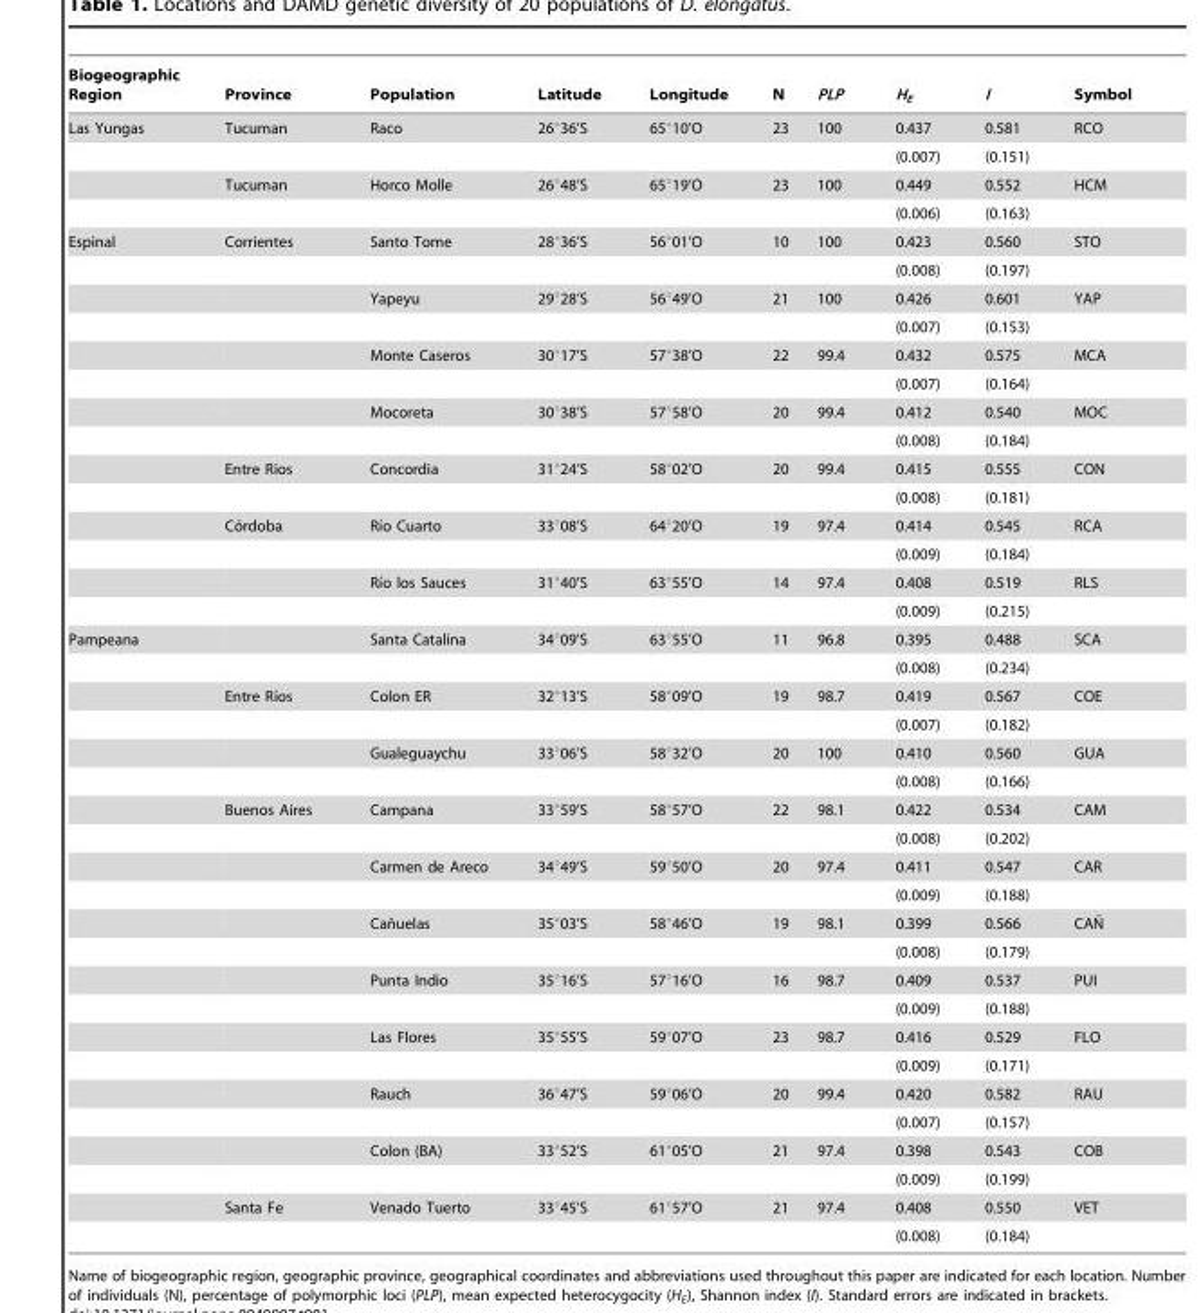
<table><thead><tr><td>Biogeographic Region</td><td>Province</td><td>Population</td><td>Latitude</td><td>Longitude</td><td>N</td><td>PLP</td><td>H<sub>E</sub></td><td>I</td><td>Symbol</td></tr></thead><tbody><tr><td rowspan="4">Las Yungas</td><td>Tucuman</td><td>Raco</td><td>26°36’S</td><td>65°10’O</td><td>23</td><td>100</td><td>0.437</td><td>0.581</td><td>RCO</td></tr><tr><td></td><td></td><td></td><td></td><td></td><td></td><td>(0.007)</td><td>(0.151)</td><td></td></tr><tr><td>Tucuman</td><td>Horco Molle</td><td>26°48’S</td><td>65°19’O</td><td>23</td><td>100</td><td>0.449</td><td>0.552</td><td>HCM</td></tr><tr><td></td><td></td><td></td><td></td><td></td><td></td><td>(0.006)</td><td>(0.163)</td><td></td></tr><tr><td rowspan="14">Espinal</td><td>Corrientes</td><td>Santo Tome</td><td>28°36’S</td><td>56°01’O</td><td>10</td><td>100</td><td>0.423</td><td>0.560</td><td>STO</td></tr><tr><td></td><td></td><td></td><td></td><td></td><td></td><td>(0.008)</td><td>(0.197)</td><td></td></tr><tr><td></td><td>Yapeyu</td><td>29°28’S</td><td>56°49’O</td><td>21</td><td>100</td><td>0.426</td><td>0.601</td><td>YAP</td></tr><tr><td></td><td></td><td></td><td></td><td></td><td></td><td>(0.007)</td><td>(0.153)</td><td></td></tr><tr><td></td><td>Monte Caseros</td><td>30°17’S</td><td>57°38’O</td><td>22</td><td>99.4</td><td>0.432</td><td>0.575</td><td>MCA</td></tr><tr><td></td><td></td><td></td><td></td><td></td><td></td><td>(0.007)</td><td>(0.164)</td><td></td></tr><tr><td></td><td>Mocoreta</td><td>30°38’S</td><td>57°58’O</td><td>20</td><td>99.4</td><td>0.412</td><td>0.540</td><td>MOC</td></tr><tr><td></td><td></td><td></td><td></td><td></td><td></td><td>(0.008)</td><td>(0.184)</td><td></td></tr><tr><td>Entre Rios</td><td>Concordia</td><td>31°24’S</td><td>58°02’O</td><td>20</td><td>99.4</td><td>0.415</td><td>0.555</td><td>CON</td></tr><tr><td></td><td></td><td></td><td></td><td></td><td></td><td>(0.008)</td><td>(0.181)</td><td></td></tr><tr><td>Co´rdoba</td><td>Rı´o Cuarto</td><td>33°08’S</td><td>64°20’O</td><td>19</td><td>97.4</td><td>0.414</td><td>0.545</td><td>RCA</td></tr><tr><td></td><td></td><td></td><td></td><td></td><td></td><td>(0.009)</td><td>(0.184)</td><td></td></tr><tr><td></td><td>Rı´o los Sauces</td><td>31°40’S</td><td>63°55’O</td><td>14</td><td>97.4</td><td>0.408</td><td>0.519</td><td>RLS</td></tr><tr><td></td><td></td><td></td><td></td><td></td><td></td><td>(0.009)</td><td>(0.215)</td><td></td></tr><tr><td rowspan="22">Pampeana</td><td></td><td>Santa Catalina</td><td>34°09’S</td><td>63°55’O</td><td>11</td><td>96.8</td><td>0.395</td><td>0.488</td><td>SCA</td></tr><tr><td></td><td></td><td></td><td></td><td></td><td></td><td>(0.008)</td><td>(0.234)</td><td></td></tr><tr><td>Entre Rı´os</td><td>Colon ER</td><td>32°13’S</td><td>58°09’O</td><td>19</td><td>98.7</td><td>0.419</td><td>0.567</td><td>COE</td></tr><tr><td></td><td></td><td></td><td></td><td></td><td></td><td>(0.007)</td><td>(0.182)</td><td></td></tr><tr><td></td><td>Gualeguaychu</td><td>33°06’S</td><td>58°32’O</td><td>20</td><td>100</td><td>0.410</td><td>0.560</td><td>GUA</td></tr><tr><td></td><td></td><td></td><td></td><td></td><td></td><td>(0.008)</td><td>(0.166)</td><td></td></tr><tr><td>Buenos Aires</td><td>Campana</td><td>33°59’S</td><td>58°57’O</td><td>22</td><td>98.1</td><td>0.422</td><td>0.534</td><td>CAM</td></tr><tr><td></td><td></td><td></td><td></td><td></td><td></td><td>(0.008)</td><td>(0.202)</td><td></td></tr><tr><td></td><td>Carmen de Areco</td><td>34°49’S</td><td>59°50’O</td><td>20</td><td>97.4</td><td>0.411</td><td>0.547</td><td>CAR</td></tr><tr><td></td><td></td><td></td><td></td><td></td><td></td><td>(0.009)</td><td>(0.188)</td><td></td></tr><tr><td></td><td>Can˜uelas</td><td>35°03’S</td><td>58°46’O</td><td>19</td><td>98.1</td><td>0.399</td><td>0.566</td><td>CAN˜</td></tr><tr><td></td><td></td><td></td><td></td><td></td><td></td><td>(0.008)</td><td>(0.179)</td><td></td></tr><tr><td></td><td>Punta Indio</td><td>35°16’S</td><td>57°16’O</td><td>16</td><td>98.7</td><td>0.409</td><td>0.537</td><td>PUI</td></tr><tr><td></td><td></td><td></td><td></td><td></td><td></td><td>(0.009)</td><td>(0.188)</td><td></td></tr><tr><td></td><td>Las Flores</td><td>35°55’S</td><td>59°07’O</td><td>23</td><td>98.7</td><td>0.416</td><td>0.529</td><td>FLO</td></tr><tr><td></td><td></td><td></td><td></td><td></td><td></td><td>(0.009)</td><td>(0.171)</td><td></td></tr><tr><td></td><td>Rauch</td><td>36°47’S</td><td>59°06’O</td><td>20</td><td>99.4</td><td>0.420</td><td>0.582</td><td>RAU</td></tr><tr><td></td><td></td><td></td><td></td><td></td><td></td><td>(0.007)</td><td>(0.157)</td><td></td></tr><tr><td></td><td>Colon (BA)</td><td>33°52’S</td><td>61°05’O</td><td>21</td><td>97.4</td><td>0.398</td><td>0.543</td><td>COB</td></tr><tr><td></td><td></td><td></td><td></td><td></td><td></td><td>(0.009)</td><td>(0.199)</td><td></td></tr><tr><td>Santa Fe</td><td>Venado Tuerto</td><td>33°45’S</td><td>61°57’O</td><td>21</td><td>97.4</td><td>0.408</td><td>0.550</td><td>VET</td></tr><tr><td></td><td></td><td></td><td></td><td></td><td></td><td>(0.008)</td><td>(0.184)</td><td></td></tr></tbody></table>